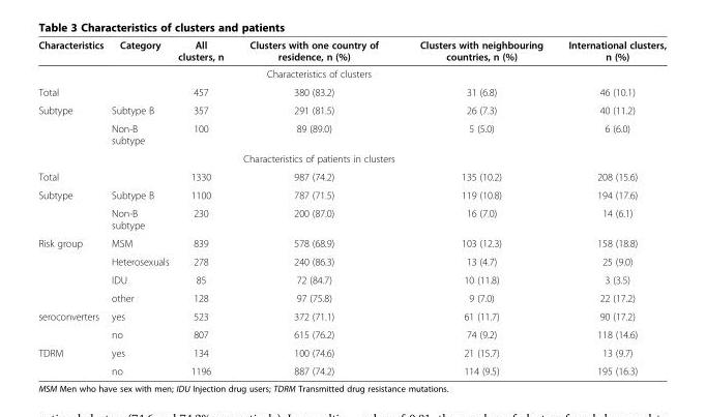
<table><thead><tr><td>Characteristics</td><td>Category</td><td>All clusters, n</td><td>Clusters with one country of residence, n (%)</td><td>Clusters with neighbouring countries, n (%)</td><td>International clusters, n (%)</td></tr></thead><tbody><tr><td colspan="3"></td><td>Characteristics of clusters</td><td colspan="2"></td></tr><tr><td>Total</td><td></td><td>457</td><td>380 (83.2)</td><td>31 (6.8)</td><td>46 (10.1)</td></tr><tr><td rowspan="2">Subtype</td><td>Subtype B</td><td>357</td><td>291 (81.5)</td><td>26 (7.3)</td><td>40 (11.2)</td></tr><tr><td>Non-B subtype</td><td>100</td><td>89 (89.0)</td><td>5 (5.0)</td><td>6 (6.0)</td></tr><tr><td colspan="3"></td><td>Characteristics of patients in clusters</td><td colspan="2"></td></tr><tr><td>Total</td><td></td><td>1330</td><td>987 (74.2)</td><td>135 (10.2)</td><td>208 (15.6)</td></tr><tr><td rowspan="2">Subtype</td><td>Subtype B</td><td>1100</td><td>787 (71.5)</td><td>119 (10.8)</td><td>194 (17.6)</td></tr><tr><td>Non-B subtype</td><td>230</td><td>200 (87.0)</td><td>16 (7.0)</td><td>14 (6.1)</td></tr><tr><td rowspan="4">Risk group</td><td>MSM</td><td>839</td><td>578 (68.9)</td><td>103 (12.3)</td><td>158 (18.8)</td></tr><tr><td>Heterosexuals</td><td>278</td><td>240 (86.3)</td><td>13 (4.7)</td><td>25 (9.0)</td></tr><tr><td>IDU</td><td>85</td><td>72 (84.7)</td><td>10 (11.8)</td><td>3 (3.5)</td></tr><tr><td>other</td><td>128</td><td>97 (75.8)</td><td>9 (7.0)</td><td>22 (17.2)</td></tr><tr><td rowspan="2">seroconverters</td><td>yes</td><td>523</td><td>372 (71.1)</td><td>61 (11.7)</td><td>90 (17.2)</td></tr><tr><td>no</td><td>807</td><td>615 (76.2)</td><td>74 (9.2)</td><td>118 (14.6)</td></tr><tr><td rowspan="2">TDRM</td><td>yes</td><td>134</td><td>100 (74.6)</td><td>21 (15.7)</td><td>13 (9.7)</td></tr><tr><td>no</td><td>1196</td><td>887 (74.2)</td><td>114 (9.5)</td><td>195 (16.3)</td></tr></tbody></table>